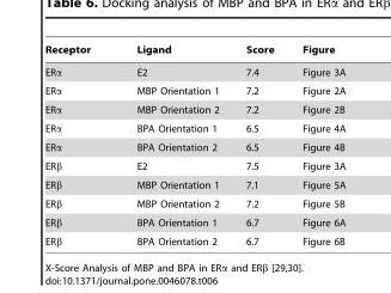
<table><thead><tr><td>Receptor</td><td>Ligand</td><td>Score</td><td>Figure</td></tr></thead><tbody><tr><td>ERα</td><td>E2</td><td>7.4</td><td>Figure 3A</td></tr><tr><td>ERα</td><td>MBP Orientation 1</td><td>7.2</td><td>Figure 2A</td></tr><tr><td>ERα</td><td>MBP Orientation 2</td><td>7.2</td><td>Figure 2B</td></tr><tr><td>ERα</td><td>BPA Orientation 1</td><td>6.5</td><td>Figure 4A</td></tr><tr><td>ERα</td><td>BPA Orientation 2</td><td>6.5</td><td>Figure 4B</td></tr><tr><td>ERβ</td><td>E2</td><td>7.5</td><td>Figure 3A</td></tr><tr><td>ERβ</td><td>MBP Orientation 1</td><td>7.1</td><td>Figure 5A</td></tr><tr><td>ERβ</td><td>MBP Orientation 2</td><td>7.2</td><td>Figure 5B</td></tr><tr><td>ERβ</td><td>BPA Orientation 1</td><td>6.7</td><td>Figure 6A</td></tr><tr><td>ERβ</td><td>BPA Orientation 2</td><td>6.7</td><td>Figure 6B</td></tr></tbody></table>